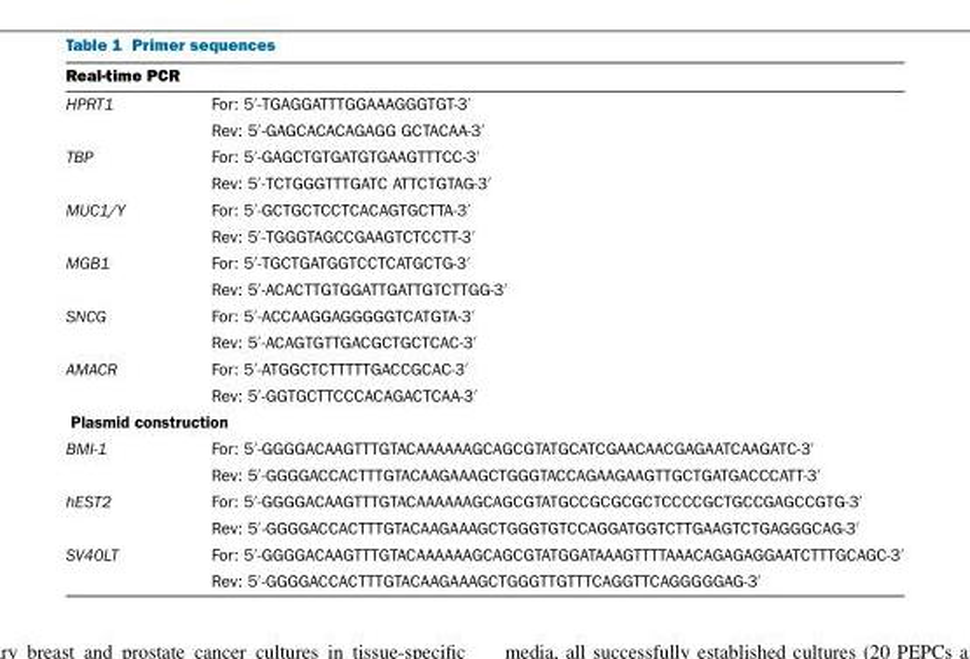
<table><thead><tr><td>Real-time PCR</td><td></td></tr></thead><tbody><tr><td rowspan="2">HPRT1</td><td>For: 5′-TGAGGATTTGGAAAGGGTGT-3′</td></tr><tr><td>Rev: 5′-GAGCACACAGAGG GCTACAA-3′</td></tr><tr><td rowspan="2">TBP</td><td>For: 5′-GAGCTGTGATGTGAAGTTTCC-3′</td></tr><tr><td>Rev: 5′-TCTGGGTTTGATC ATTCTGTAG-3′</td></tr><tr><td rowspan="2">MUC1/Y</td><td>For: 5′-GCTGCTCCTCACAGTGCTTA-3′</td></tr><tr><td>Rev: 5′-TGGGTAGCCGAAGTCTCCTT-3′</td></tr><tr><td rowspan="2">MGB1</td><td>For: 5′-TGCTGATGGTCCTCATGCTG-3′</td></tr><tr><td>Rev: 5′-ACACTTGTGGATTGATTGTCTTGG-3′</td></tr><tr><td rowspan="2">SNCG</td><td>For: 5′-ACCAAGGAGGGGGTCATGTA-3′</td></tr><tr><td>Rev: 5′-ACAGTGTTGACGCTGCTCAC-3′</td></tr><tr><td rowspan="2">AMACR</td><td>For: 5′-ATGGCTCTTTTTGACCGCAC-3′</td></tr><tr><td>Rev: 5′-GGTGCTTCCCACAGACTCAA-3′</td></tr><tr><td colspan="2">Plasmid construction</td></tr><tr><td rowspan="2">BMI-1</td><td>For: 5′-GGGGACAAGTTTGTACAAAAAAGCAGCGTATGCATCGAACAACGAGAATCAAGATC-3′</td></tr><tr><td>Rev: 5′-GGGGACCACTTTGTACAAGAAAGCTGGGTACCAGAAGAAGTTGCTGATGACCCATT-3′</td></tr><tr><td rowspan="2">hEST2</td><td>For: 5′-GGGGACAAGTTTGTACAAAAAAGCAGCGTATGCCGCGCGCTCCCCGCTGCCGAGCCGTG-3′</td></tr><tr><td>Rev: 5′-GGGGACCACTTTGTACAAGAAAGCTGGGTGTCCAGGATGGTCTTGAAGTCTGAGGGCAG-3′</td></tr><tr><td rowspan="2">SV40LT</td><td>For: 5′-GGGGACAAGTTTGTACAAAAAAGCAGCGTATGGATAAAGTTTTAAACAGAGAGGAATCTTTGCAGC-3′</td></tr><tr><td>Rev: 5′-GGGGACCACTTTGTACAAGAAAGCTGGGTTGTTTCAGGTTCAGGGGGAG-3′</td></tr></tbody></table>